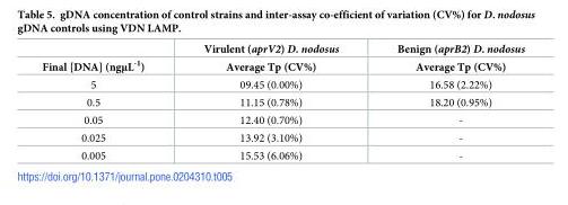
<table><thead><tr><td rowspan="2">Final [DNA] (ngμL<sup>-1</sup>)</td><td rowspan="2">Virulent (aprV2) D. nodosus Average Tp (CV%)</td><td rowspan="2">Benign (aprB2) D. nodosus Average Tp (CV%)</td></tr><tr></tr></thead><tbody><tr><td>5</td><td>09.45 (0.00%)</td><td>16.58 (2.22%)</td></tr><tr><td>0.5</td><td>11.15 (0.78%)</td><td>18.20 (0.95%)</td></tr><tr><td>0.05</td><td>12.40 (0.70%)</td><td>-</td></tr><tr><td>0.025</td><td>13.92 (3.10%)</td><td>-</td></tr><tr><td>0.005</td><td>15.53 (6.06%)</td><td>-</td></tr></tbody></table>